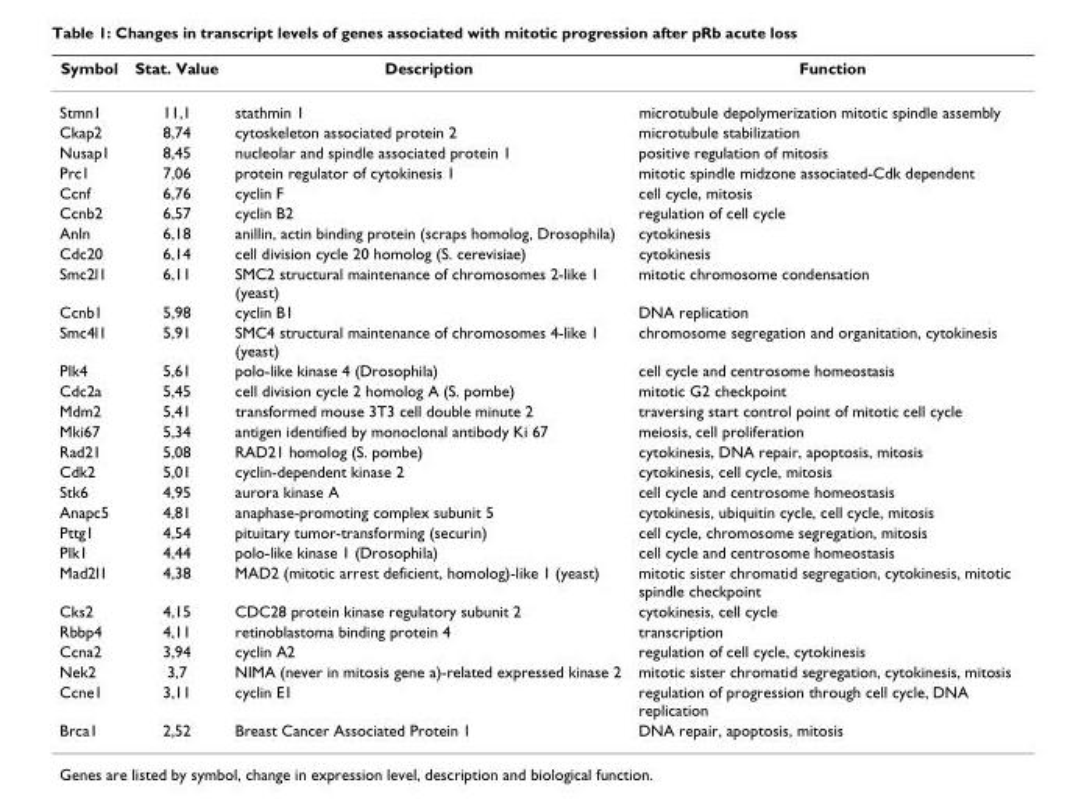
<table><thead><tr><td>Symbol</td><td>Stat. Value</td><td>Description</td><td>Function</td></tr></thead><tbody><tr><td>Stmn1</td><td>11,1</td><td>stathmin 1</td><td>microtubule depolymerization mitotic spindle assembly</td></tr><tr><td>Ckap2</td><td>8,74</td><td>cytoskeleton associated protein 2</td><td>microtubule stabilization</td></tr><tr><td>Nusap1</td><td>8,45</td><td>nucleolar and spindle associated protein 1</td><td>positive regulation of mitosis</td></tr><tr><td>Prc1</td><td>7,06</td><td>protein regulator of cytokinesis 1</td><td>mitotic spindle midzone associated-Cdk dependent</td></tr><tr><td>Ccnf</td><td>6,76</td><td>cyclin F</td><td>cell cycle, mitosis</td></tr><tr><td>Ccnb2</td><td>6,57</td><td>cyclin B2</td><td>regulation of cell cycle</td></tr><tr><td>Anln</td><td>6,18</td><td>anillin, actin binding protein (scraps homolog, Drosophila)</td><td>cytokinesis</td></tr><tr><td>Cdc20</td><td>6,14</td><td>cell division cycle 20 homolog (S. cerevisiae)</td><td>cytokinesis</td></tr><tr><td>Smc2l1</td><td>6,11</td><td>SMC2 structural maintenance of chromosomes 2-like 1 (yeast)</td><td>mitotic chromosome condensation</td></tr><tr><td>Ccnb1</td><td>5,98</td><td>cyclin B1</td><td>DNA replication</td></tr><tr><td>Smc4l1</td><td>5,91</td><td>SMC4 structural maintenance of chromosomes 4-like 1 (yeast)</td><td>chromosome segregation and organitation, cytokinesis</td></tr><tr><td>Plk4</td><td>5,61</td><td>polo-like kinase 4 (Drosophila)</td><td>cell cycle and centrosome homeostasis</td></tr><tr><td>Cdc2a</td><td>5,45</td><td>cell division cycle 2 homolog A (S. pombe)</td><td>mitotic G2 checkpoint</td></tr><tr><td>Mdm2</td><td>5,41</td><td>transformed mouse 3T3 cell double minute 2</td><td>traversing start control point of mitotic cell cycle</td></tr><tr><td>Mki67</td><td>5,34</td><td>antigen identified by monoclonal antibody Ki 67</td><td>meiosis, cell proliferation</td></tr><tr><td>Rad21</td><td>5,08</td><td>RAD21 homolog (S. pombe)</td><td>cytokinesis, DNA repair, apoptosis, mitosis</td></tr><tr><td>Cdk2</td><td>5,01</td><td>cyclin-dependent kinase 2</td><td>cytokinesis, cell cycle, mitosis</td></tr><tr><td>Stk6</td><td>4,95</td><td>aurora kinase A</td><td>cell cycle and centrosome homeostasis</td></tr><tr><td>Anapc5</td><td>4,81</td><td>anaphase-promoting complex subunit 5</td><td>cytokinesis, ubiquitin cycle, cell cycle, mitosis</td></tr><tr><td>Pttg1</td><td>4,54</td><td>pituitary tumor-transforming (securin)</td><td>cell cycle, chromosome segregation, mitosis</td></tr><tr><td>Plk1</td><td>4,44</td><td>polo-like kinase 1 (Drosophila)</td><td>cell cycle and centrosome homeostasis</td></tr><tr><td>Mad2l1</td><td>4,38</td><td>MAD2 (mitotic arrest deficient, homolog)-like 1 (yeast)</td><td>mitotic sister chromatid segregation, cytokinesis, mitotic spindle checkpoint</td></tr><tr><td>Cks2</td><td>4,15</td><td>CDC28 protein kinase regulatory subunit 2</td><td>cytokinesis, cell cycle</td></tr><tr><td>Rbbp4</td><td>4,11</td><td>retinoblastoma binding protein 4</td><td>transcription</td></tr><tr><td>Ccna2</td><td>3,94</td><td>cyclin A2</td><td>regulation of cell cycle, cytokinesis</td></tr><tr><td>Nek2</td><td>3,7</td><td>NIMA (never in mitosis gene a)-related expressed kinase 2</td><td>mitotic sister chromatid segregation, cytokinesis, mitosis</td></tr><tr><td>Ccne1</td><td>3,11</td><td>cyclin E1</td><td>regulation of progression through cell cycle, DNA replication</td></tr><tr><td>Brca1</td><td>2,52</td><td>Breast Cancer Associated Protein 1</td><td>DNA repair, apoptosis, mitosis</td></tr></tbody></table>